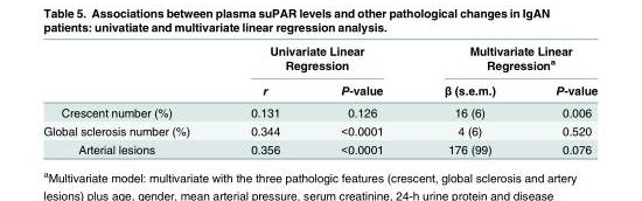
<table><thead><tr><td rowspan="2"></td><td colspan="2">Univariate Linear Regression</td><td colspan="2">Multivariate Linear Regression<sup>a</sup></td></tr><tr><td>r</td><td>P-value</td><td>β (s.e.m.)</td><td>P-value</td></tr></thead><tbody><tr><td>Crescent number (%)</td><td>0.131</td><td>0.126</td><td>16 (6)</td><td>0.006</td></tr><tr><td>Global sclerosis number (%)</td><td>0.344</td><td>&lt;0.0001</td><td>4 (6)</td><td>0.520</td></tr><tr><td>Arterial lesions</td><td>0.356</td><td>&lt;0.0001</td><td>176 (99)</td><td>0.076</td></tr></tbody></table>